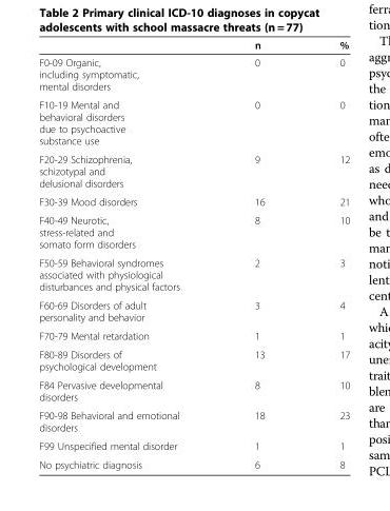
<table><thead><tr><td></td><td>n</td><td>%</td></tr></thead><tbody><tr><td>F0-09 Organic, including symptomatic, mental disorders</td><td>0</td><td>0</td></tr><tr><td>F10-19 Mental and behavioral disorders due to psychoactive substance use</td><td>0</td><td>0</td></tr><tr><td>F20-29 Schizophrenia, schizotypal and delusional disorders</td><td>9</td><td>12</td></tr><tr><td>F30-39 Mood disorders</td><td>16</td><td>21</td></tr><tr><td>F40-49 Neurotic, stress-related and somato form disorders</td><td>8</td><td>10</td></tr><tr><td>F50-59 Behavioral syndromes associated with physiological disturbances and physical factors</td><td>2</td><td>3</td></tr><tr><td>F60-69 Disorders of adult personality and behavior</td><td>3</td><td>4</td></tr><tr><td>F70-79 Mental retardation</td><td>1</td><td>1</td></tr><tr><td>F80-89 Disorders of psychological development</td><td>13</td><td>17</td></tr><tr><td>F84 Pervasive developmental disorders</td><td>8</td><td>10</td></tr><tr><td>F90-98 Behavioral and emotional disorders</td><td>18</td><td>23</td></tr><tr><td>F99 Unspecified mental disorder</td><td>1</td><td>1</td></tr><tr><td>No psychiatric diagnosis</td><td>6</td><td>8</td></tr></tbody></table>